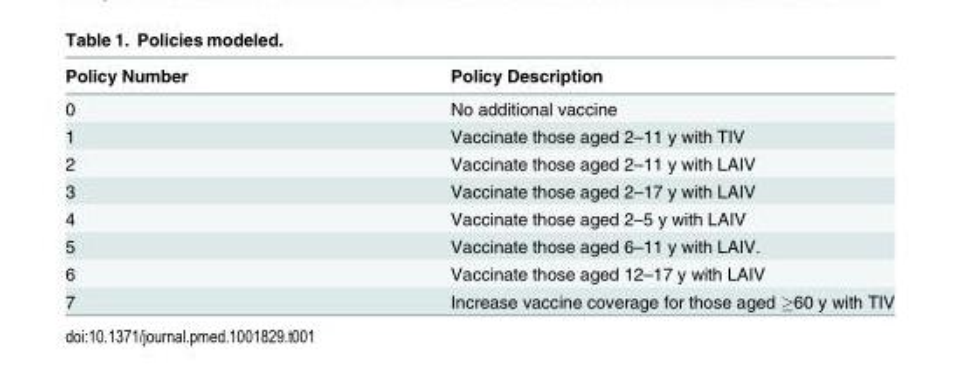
<table><thead><tr><td>Policy Number</td><td>Policy Description</td></tr></thead><tbody><tr><td>0</td><td>No additional vaccine</td></tr><tr><td>1</td><td>Vaccinate those aged 2–11 y with TIV</td></tr><tr><td>2</td><td>Vaccinate those aged 2–11 y with LAIV</td></tr><tr><td>3</td><td>Vaccinate those aged 2–17 y with LAIV</td></tr><tr><td>4</td><td>Vaccinate those aged 2–5 y with LAIV</td></tr><tr><td>5</td><td>Vaccinate those aged 6–11 y with LAIV.</td></tr><tr><td>6</td><td>Vaccinate those aged 12–17 y with LAIV</td></tr><tr><td>7</td><td>Increase vaccine coverage for those aged ≥60 y with TIV</td></tr></tbody></table>